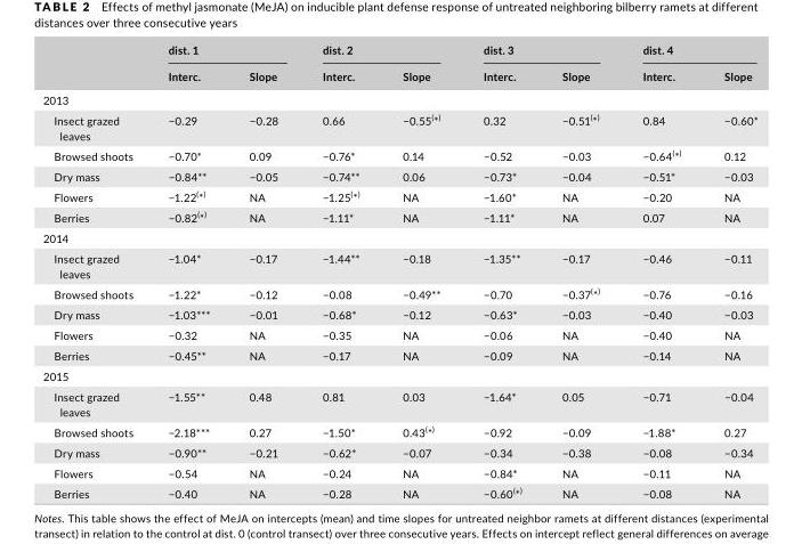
<table><thead><tr><td rowspan="2"></td><td colspan="2">dist. 1</td><td colspan="2">dist. 2</td><td colspan="2">dist. 3</td><td colspan="2">dist. 4</td></tr><tr><td>Interc.</td><td>Slope</td><td>Interc.</td><td>Slope</td><td>Interc.</td><td>Slope</td><td>Interc.</td><td>Slope</td></tr></thead><tbody><tr><td colspan="9">2013</td></tr><tr><td>Insect grazed leaves</td><td>−0.29</td><td>−0.28</td><td>0.66</td><td>−0.55(*)</td><td>0.32</td><td>−0.51(*)</td><td>0.84</td><td>−0.60*</td></tr><tr><td>Browsed shoots</td><td>−0.70*</td><td>0.09</td><td>−0.76*</td><td>0.14</td><td>−0.52</td><td>−0.03</td><td>−0.64(*)</td><td>0.12</td></tr><tr><td>Dry mass</td><td>−0.84**</td><td>−0.05</td><td>−0.74**</td><td>0.06</td><td>−0.73*</td><td>−0.04</td><td>−0.51*</td><td>−0.03</td></tr><tr><td>Flowers</td><td>−1.22(*)</td><td>NA</td><td>−1.25(*)</td><td>NA</td><td>−1.60*</td><td>NA</td><td>−0.20</td><td>NA</td></tr><tr><td>Berries</td><td>−0.82(*)</td><td>NA</td><td>−1.11*</td><td>NA</td><td>−1.11*</td><td>NA</td><td>0.07</td><td>NA</td></tr><tr><td colspan="9">2014</td></tr><tr><td>Insect grazed leaves</td><td>−1.04*</td><td>−0.17</td><td>−1.44**</td><td>−0.18</td><td>−1.35**</td><td>−0.17</td><td>−0.46</td><td>−0.11</td></tr><tr><td>Browsed shoots</td><td>−1.22*</td><td>−0.12</td><td>−0.08</td><td>−0.49**</td><td>−0.70</td><td>−0.37(*)</td><td>−0.76</td><td>−0.16</td></tr><tr><td>Dry mass</td><td>−1.03***</td><td>−0.01</td><td>−0.68*</td><td>−0.12</td><td>−0.63*</td><td>−0.03</td><td>−0.40</td><td>−0.03</td></tr><tr><td>Flowers</td><td>−0.32</td><td>NA</td><td>−0.35</td><td>NA</td><td>−0.06</td><td>NA</td><td>−0.40</td><td>NA</td></tr><tr><td>Berries</td><td>−0.45**</td><td>NA</td><td>−0.17</td><td>NA</td><td>−0.09</td><td>NA</td><td>−0.14</td><td>NA</td></tr><tr><td colspan="9">2015</td></tr><tr><td>Insect grazed leaves</td><td>−1.55**</td><td>0.48</td><td>0.81</td><td>0.03</td><td>−1.64*</td><td>0.05</td><td>−0.71</td><td>−0.04</td></tr><tr><td>Browsed shoots</td><td>−2.18***</td><td>0.27</td><td>−1.50*</td><td>0.43(*)</td><td>−0.92</td><td>−0.09</td><td>−1.88*</td><td>0.27</td></tr><tr><td>Dry mass</td><td>−0.90**</td><td>−0.21</td><td>−0.62*</td><td>−0.07</td><td>−0.34</td><td>−0.38</td><td>−0.08</td><td>−0.34</td></tr><tr><td>Flowers</td><td>−0.54</td><td>NA</td><td>−0.24</td><td>NA</td><td>−0.84*</td><td>NA</td><td>−0.11</td><td>NA</td></tr><tr><td>Berries</td><td>−0.40</td><td>NA</td><td>−0.28</td><td>NA</td><td>−0.60(*)</td><td>NA</td><td>−0.08</td><td>NA</td></tr></tbody></table>